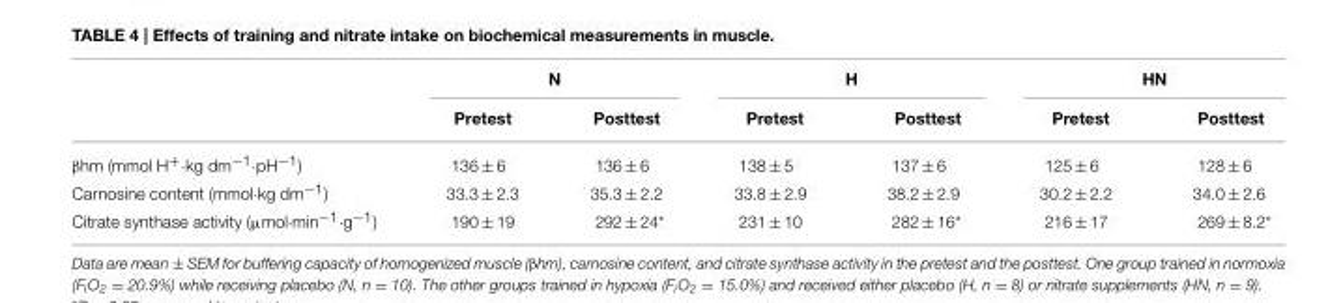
<table><thead><tr><td rowspan="2"></td><td colspan="2">N</td><td colspan="2">H</td><td colspan="2">HN</td></tr><tr><td>Pretest</td><td>Posttest</td><td>Pretest</td><td>Posttest</td><td>Pretest</td><td>Posttest</td></tr></thead><tbody><tr><td>βhm (mmol H<sup>+</sup>·kg dm<sup>−1</sup>·pH<sup>−1</sup>)</td><td>136 ± 6</td><td>136 ± 6</td><td>138 ± 5</td><td>137 ± 6</td><td>125 ± 6</td><td>128 ± 6</td></tr><tr><td>Carnosine content (mmol·kg dm<sup>−1</sup>)</td><td>33.3 ± 2.3</td><td>35.3 ± 2.2</td><td>33.8 ± 2.9</td><td>38.2 ± 2.9</td><td>30.2 ± 2.2</td><td>34.0 ± 2.6</td></tr><tr><td>Citrate synthase activity (µmol·min<sup>−1</sup>·g<sup>−1</sup>)</td><td>190 ± 19</td><td>292 ± 24*</td><td>231 ± 10</td><td>282 ± 16*</td><td>216 ± 17</td><td>269 ± 8.2*</td></tr></tbody></table>